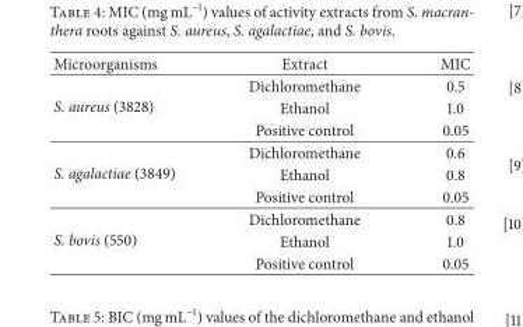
<table><thead><tr><td>Microorganisms</td><td>Extract</td><td>MIC</td></tr></thead><tbody><tr><td rowspan="3">S. aureus (3828)</td><td>Dichloromethane</td><td>0.5</td></tr><tr><td>Ethanol</td><td>1.0</td></tr><tr><td>Positive control</td><td>0.05</td></tr><tr><td rowspan="3">S. agalactiae (3849)</td><td>Dichloromethane</td><td>0.6</td></tr><tr><td>Ethanol</td><td>0.8</td></tr><tr><td>Positive control</td><td>0.05</td></tr><tr><td rowspan="3">S. bovis (550)</td><td>Dichloromethane</td><td>0.8</td></tr><tr><td>Ethanol</td><td>1.0</td></tr><tr><td>Positive control</td><td>0.05</td></tr></tbody></table>